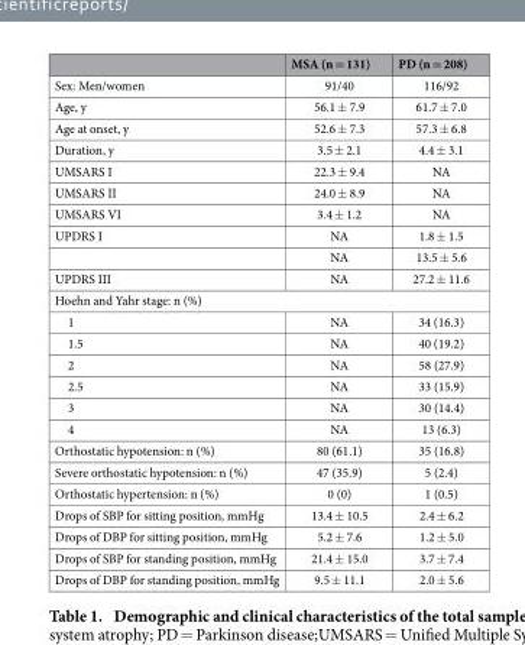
<table><thead><tr><td></td><td>MSA (n = 131)</td><td>PD (n = 208)</td></tr></thead><tbody><tr><td>Sex: Men/women</td><td>91/40</td><td>116/92</td></tr><tr><td>Age, y</td><td>56.1 ± 7.9</td><td>61.7 ± 7.0</td></tr><tr><td>Age at onset, y</td><td>52.6 ± 7.3</td><td>57.3 ± 6.8</td></tr><tr><td>Duration, y</td><td>3.5 ± 2.1</td><td>4.4 ± 3.1</td></tr><tr><td>UMSARS I</td><td>22.3 ± 9.4</td><td>NA</td></tr><tr><td>UMSARS II</td><td>24.0 ± 8.9</td><td>NA</td></tr><tr><td>UMSARS VI</td><td>3.4 ± 1.2</td><td>NA</td></tr><tr><td rowspan="2">UPDRS I</td><td>NA</td><td>1.8 ± 1.5</td></tr><tr><td>NA</td><td>13.5 ± 5.6</td></tr><tr><td>UPDRS III</td><td>NA</td><td>27.2 ± 11.6</td></tr><tr><td colspan="3">Hoehn and Yahr stage: n (%)</td></tr><tr><td>1</td><td>NA</td><td>34 (16.3)</td></tr><tr><td>1.5</td><td>NA</td><td>40 (19.2)</td></tr><tr><td>2</td><td>NA</td><td>58 (27.9)</td></tr><tr><td>2.5</td><td>NA</td><td>33 (15.9)</td></tr><tr><td>3</td><td>NA</td><td>30 (14.4)</td></tr><tr><td>4</td><td>NA</td><td>13 (6.3)</td></tr><tr><td>Orthostatic hypotension: n (%)</td><td>80 (61.1)</td><td>35 (16.8)</td></tr><tr><td>Severe orthostatic hypotension: n (%)</td><td>47 (35.9)</td><td>5 (2.4)</td></tr><tr><td>Orthostatic hypertension: n (%)</td><td>0 (0)</td><td>1 (0.5)</td></tr><tr><td>Drops of SBP for sitting position, mmHg</td><td>13.4 ± 10.5</td><td>2.4 ± 6.2</td></tr><tr><td>Drops of DBP for sitting position, mmHg</td><td>5.2 ± 7.6</td><td>1.2 ± 5.0</td></tr><tr><td>Drops of SBP for standing position, mmHg</td><td>21.4 ± 15.0</td><td>3.7 ± 7.4</td></tr><tr><td>Drops of DBP for standing position, mmHg</td><td>9.5 ± 11.1</td><td>2.0 ± 5.6</td></tr></tbody></table>